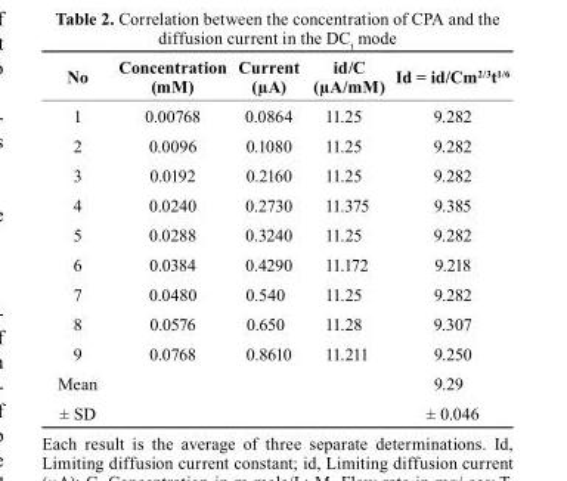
<table><thead><tr><td>no</td><td>concentration (mm)</td><td>current (µA)</td><td>id/c (µA/mm)</td><td>Id = id/cm<sup>2/3</sup>t<sup>1/6</sup></td></tr></thead><tbody><tr><td>1</td><td>0.00768</td><td>0.0864</td><td>11.25</td><td>9.282</td></tr><tr><td>2</td><td>0.0096</td><td>0.1080</td><td>11.25</td><td>9.282</td></tr><tr><td>3</td><td>0.0192</td><td>0.2160</td><td>11.25</td><td>9.282</td></tr><tr><td>4</td><td>0.0240</td><td>0.2730</td><td>11.375</td><td>9.385</td></tr><tr><td>5</td><td>0.0288</td><td>0.3240</td><td>11.25</td><td>9.282</td></tr><tr><td>6</td><td>0.0384</td><td>0.4290</td><td>11.172</td><td>9.218</td></tr><tr><td>7</td><td>0.0480</td><td>0.540</td><td>11.25</td><td>9.282</td></tr><tr><td>8</td><td>0.0576</td><td>0.650</td><td>11.28</td><td>9.307</td></tr><tr><td>9</td><td>0.0768</td><td>0.8610</td><td>11.211</td><td>9.250</td></tr><tr><td>Mean</td><td></td><td></td><td></td><td>9.29</td></tr><tr><td>± SD</td><td></td><td></td><td></td><td>± 0.046</td></tr></tbody></table>